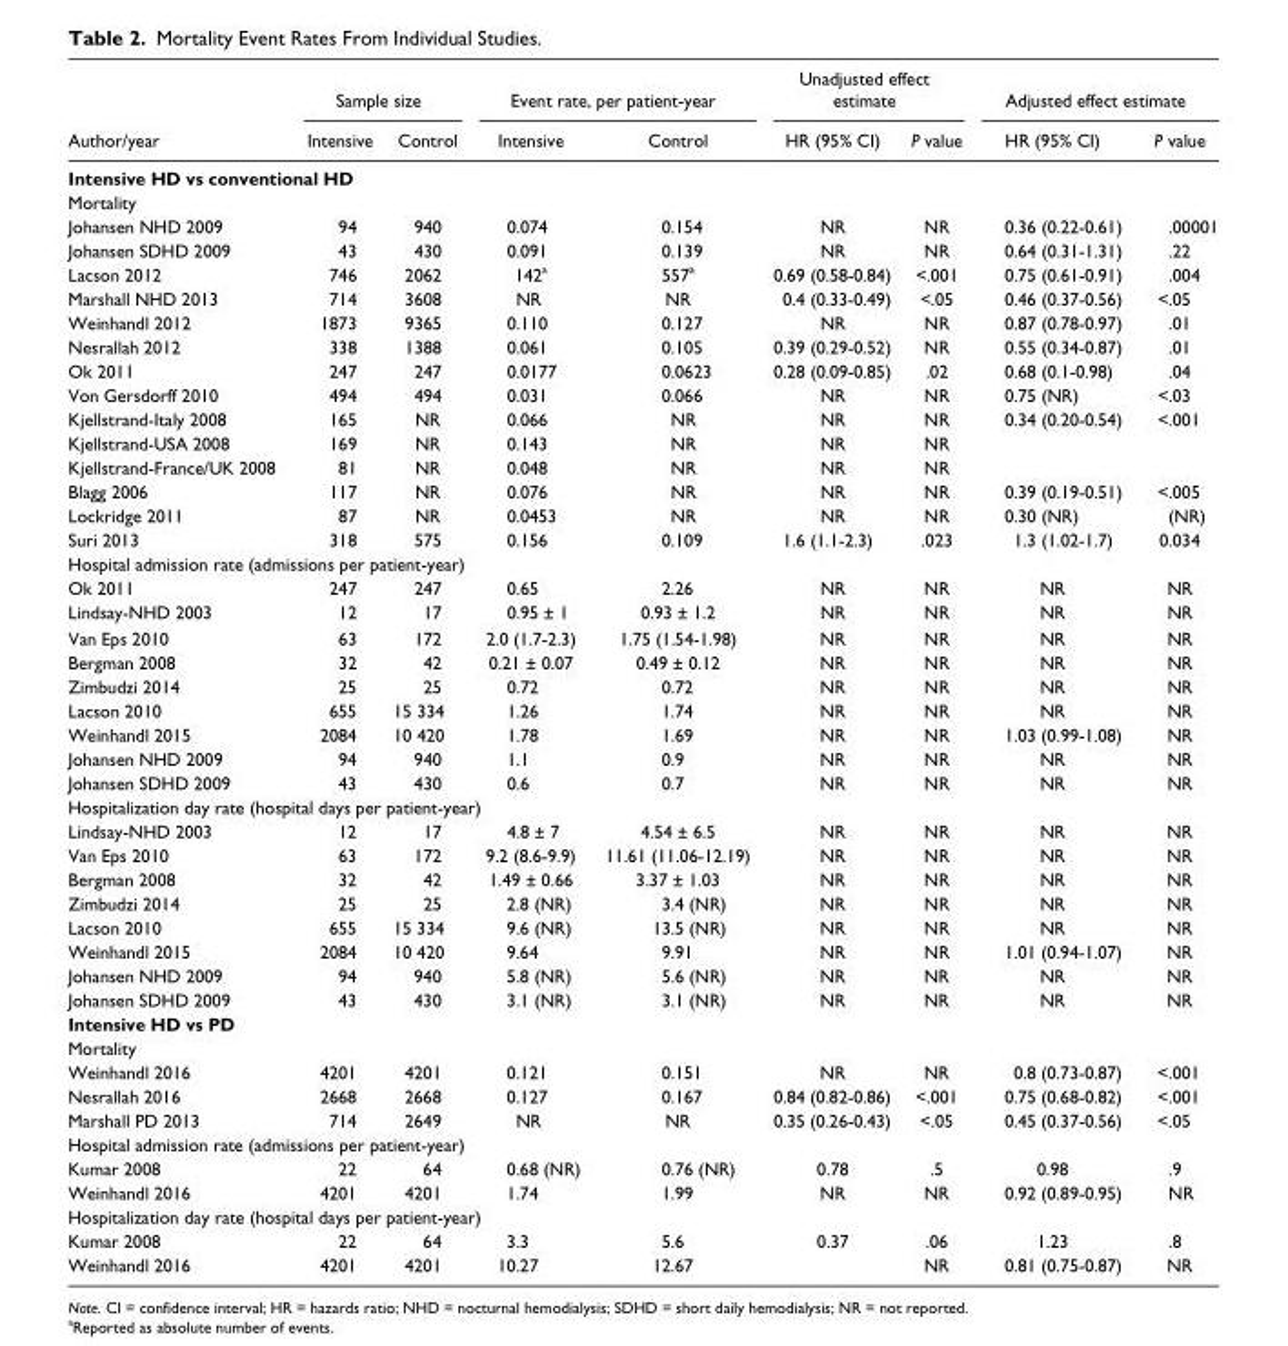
<table><thead><tr><td rowspan="2">Author/year</td><td colspan="2">Sample size</td><td colspan="2">Event rate, per patient-year</td><td colspan="2">Unadjusted effect estimate</td><td colspan="2">Adjusted effect estimate</td></tr><tr><td>Intensive</td><td>Control</td><td>Intensive</td><td>Control</td><td>HR (95% CI)</td><td>P value</td><td>HR (95% CI)</td><td>P value</td></tr></thead><tbody><tr><td colspan="9">Intensive HD vs conventional HD</td></tr><tr><td colspan="9">Mortality</td></tr><tr><td>Johansen NHD 2009</td><td>94</td><td>940</td><td>0.074</td><td>0.154</td><td>NR</td><td>NR</td><td>0.36 (0.22-0.61)</td><td>.00001</td></tr><tr><td>Johansen SDHD 2009</td><td>43</td><td>430</td><td>0.091</td><td>0.139</td><td>NR</td><td>NR</td><td>0.64 (0.31-1.31)</td><td>.22</td></tr><tr><td>Lacson 2012</td><td>746</td><td>2062</td><td>142<sup>a</sup></td><td>557<sup>a</sup></td><td>0.69 (0.58-0.84)</td><td>&lt;.001</td><td>0.75 (0.61-0.91)</td><td>.004</td></tr><tr><td>Marshall NHD 2013</td><td>714</td><td>3608</td><td>NR</td><td>NR</td><td>0.4 (0.33-0.49)</td><td>&lt;.05</td><td>0.46 (0.37-0.56)</td><td>&lt;.05</td></tr><tr><td>Weinhandl 2012</td><td>1873</td><td>9365</td><td>0.110</td><td>0.127</td><td>NR</td><td>NR</td><td>0.87 (0.78-0.97)</td><td>.01</td></tr><tr><td>Nesrallah 2012</td><td>338</td><td>1388</td><td>0.061</td><td>0.105</td><td>0.39 (0.29-0.52)</td><td>NR</td><td>0.55 (0.34-0.87)</td><td>.01</td></tr><tr><td>Ok 2011</td><td>247</td><td>247</td><td>0.0177</td><td>0.0623</td><td>0.28 (0.09-0.85)</td><td>.02</td><td>0.68 (0.1-0.98)</td><td>.04</td></tr><tr><td>Von Gersdorff 2010</td><td>494</td><td>494</td><td>0.031</td><td>0.066</td><td>NR</td><td>NR</td><td>0.75 (NR)</td><td>&lt;.03</td></tr><tr><td>Kjellstrand-Italy 2008</td><td>165</td><td>NR</td><td>0.066</td><td>NR</td><td>NR</td><td>NR</td><td rowspan="3">0.34 (0.20-0.54)</td><td rowspan="3">&lt;.001</td></tr><tr><td>Kjellstrand-USA 2008</td><td>169</td><td>NR</td><td>0.143</td><td>NR</td><td>NR</td><td>NR</td></tr><tr><td>Kjellstrand-France/UK 2008</td><td>81</td><td>NR</td><td>0.048</td><td>NR</td><td>NR</td><td>NR</td></tr><tr><td>Blagg 2006</td><td>117</td><td>NR</td><td>0.076</td><td>NR</td><td>NR</td><td>NR</td><td>0.39 (0.19-0.51)</td><td>&lt;.005</td></tr><tr><td>Lockridge 2011</td><td>87</td><td>NR</td><td>0.0453</td><td>NR</td><td>NR</td><td>NR</td><td>0.30 (NR)</td><td>(NR)</td></tr><tr><td>Suri 2013</td><td>318</td><td>575</td><td>0.156</td><td>0.109</td><td>1.6 (1.1-2.3)</td><td>.023</td><td>1.3 (1.02-1.7)</td><td>0.034</td></tr><tr><td colspan="9">Hospital admission rate (admissions per patient-year)</td></tr><tr><td>Ok 2011</td><td>247</td><td>247</td><td>0.65</td><td>2.26</td><td>NR</td><td>NR</td><td>NR</td><td>NR</td></tr><tr><td>Lindsay-NHD 2003</td><td>12</td><td>17</td><td>0.95 ± 1</td><td>0.93 ± 1.2</td><td>NR</td><td>NR</td><td>NR</td><td>NR</td></tr><tr><td>Van Eps 2010</td><td>63</td><td>172</td><td>2.0 (1.7-2.3)</td><td>1.75 (1.54-1.98)</td><td>NR</td><td>NR</td><td>NR</td><td>NR</td></tr><tr><td>Bergman 2008</td><td>32</td><td>42</td><td>0.21 ± 0.07</td><td>0.49 ± 0.12</td><td>NR</td><td>NR</td><td>NR</td><td>NR</td></tr><tr><td>Zimbudzi 2014</td><td>25</td><td>25</td><td>0.72</td><td>0.72</td><td>NR</td><td>NR</td><td>NR</td><td>NR</td></tr><tr><td>Lacson 2010</td><td>655</td><td>15 334</td><td>1.26</td><td>1.74</td><td>NR</td><td>NR</td><td>NR</td><td>NR</td></tr><tr><td>Weinhandl 2015</td><td>2084</td><td>10 420</td><td>1.78</td><td>1.69</td><td>NR</td><td>NR</td><td>1.03 (0.99-1.08)</td><td>NR</td></tr><tr><td>Johansen NHD 2009</td><td>94</td><td>940</td><td>1.1</td><td>0.9</td><td>NR</td><td>NR</td><td>NR</td><td>NR</td></tr><tr><td>Johansen SDHD 2009</td><td>43</td><td>430</td><td>0.6</td><td>0.7</td><td>NR</td><td>NR</td><td>NR</td><td>NR</td></tr><tr><td colspan="9">Hospitalization day rate (hospital days per patient-year)</td></tr><tr><td>Lindsay-NHD 2003</td><td>12</td><td>17</td><td>4.8 ± 7</td><td>4.54 ± 6.5</td><td>NR</td><td>NR</td><td>NR</td><td>NR</td></tr><tr><td>Van Eps 2010</td><td>63</td><td>172</td><td>9.2 (8.6-9.9)</td><td>11.61 (11.06-12.19)</td><td>NR</td><td>NR</td><td>NR</td><td>NR</td></tr><tr><td>Bergman 2008</td><td>32</td><td>42</td><td>1.49 ± 0.66</td><td>3.37 ± 1.03</td><td>NR</td><td>NR</td><td>NR</td><td>NR</td></tr><tr><td>Zimbudzi 2014</td><td>25</td><td>25</td><td>2.8 (NR)</td><td>3.4 (NR)</td><td>NR</td><td>NR</td><td>NR</td><td>NR</td></tr><tr><td>Lacson 2010</td><td>655</td><td>15 334</td><td>9.6 (NR)</td><td>13.5 (NR)</td><td>NR</td><td>NR</td><td>NR</td><td>NR</td></tr><tr><td>Weinhandl 2015</td><td>2084</td><td>10 420</td><td>9.64</td><td>9.91</td><td>NR</td><td>NR</td><td>1.01 (0.94-1.07)</td><td>NR</td></tr><tr><td>Johansen NHD 2009</td><td>94</td><td>940</td><td>5.8 (NR)</td><td>5.6 (NR)</td><td>NR</td><td>NR</td><td>NR</td><td>NR</td></tr><tr><td>Johansen SDHD 2009</td><td>43</td><td>430</td><td>3.1 (NR)</td><td>3.1 (NR)</td><td>NR</td><td>NR</td><td>NR</td><td>NR</td></tr><tr><td colspan="9">Intensive HD vs PD</td></tr><tr><td colspan="9">Mortality</td></tr><tr><td>Weinhandl 2016</td><td>4201</td><td>4201</td><td>0.121</td><td>0.151</td><td>NR</td><td>NR</td><td>0.8 (0.73-0.87)</td><td>&lt;.001</td></tr><tr><td>Nesrallah 2016</td><td>2668</td><td>2668</td><td>0.127</td><td>0.167</td><td>0.84 (0.82-0.86)</td><td>&lt;.001</td><td>0.75 (0.68-0.82)</td><td>&lt;.001</td></tr><tr><td>Marshall PD 2013</td><td>714</td><td>2649</td><td>NR</td><td>NR</td><td>0.35 (0.26-0.43)</td><td>&lt;.05</td><td>0.45 (0.37-0.56)</td><td>&lt;.05</td></tr><tr><td colspan="9">Hospital admission rate (admissions per patient-year)</td></tr><tr><td>Kumar 2008</td><td>22</td><td>64</td><td>0.68 (NR)</td><td>0.76 (NR)</td><td>0.78</td><td>.5</td><td>0.98</td><td>.9</td></tr><tr><td>Weinhandl 2016</td><td>4201</td><td>4201</td><td>1.74</td><td>1.99</td><td>NR</td><td>NR</td><td>0.92 (0.89-0.95)</td><td>NR</td></tr><tr><td colspan="9">Hospitalization day rate (hospital days per patient-year)</td></tr><tr><td>Kumar 2008</td><td>22</td><td>64</td><td>3.3</td><td>5.6</td><td>0.37</td><td>.06</td><td>1.23</td><td>.8</td></tr><tr><td>Weinhandl 2016</td><td>4201</td><td>4201</td><td>10.27</td><td>12.67</td><td></td><td>NR</td><td>0.81 (0.75-0.87)</td><td>NR</td></tr></tbody></table>